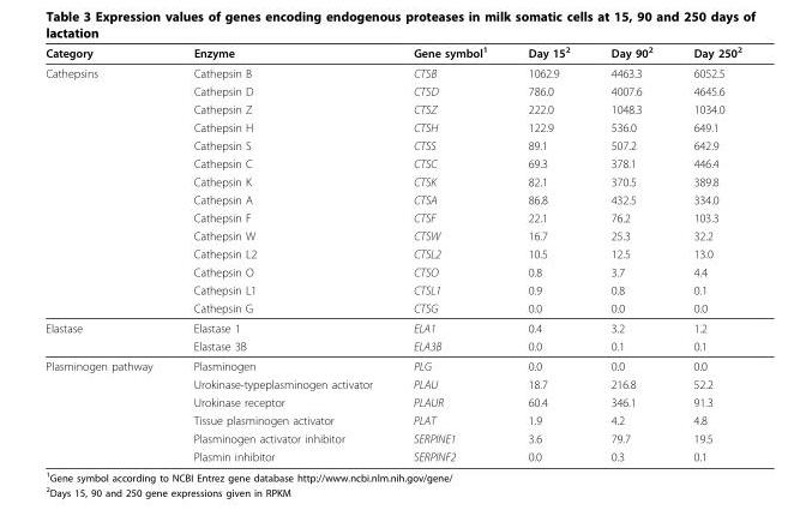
<table><thead><tr><td>Category</td><td>Enzyme</td><td>Gene symbol<sup>1</sup></td><td>Day 15<sup>2</sup></td><td>Day 90<sup>2</sup></td><td>Day 250<sup>2</sup></td></tr></thead><tbody><tr><td rowspan="14">Cathepsins</td><td>Cathepsin B</td><td>CTSB</td><td>1062.9</td><td>4463.3</td><td>6052.5</td></tr><tr><td>Cathepsin D</td><td>CTSD</td><td>786.0</td><td>4007.6</td><td>4645.6</td></tr><tr><td>Cathepsin Z</td><td>CTSZ</td><td>222.0</td><td>1048.3</td><td>1034.0</td></tr><tr><td>Cathepsin H</td><td>CTSH</td><td>122.9</td><td>536.0</td><td>649.1</td></tr><tr><td>Cathepsin S</td><td>CTSS</td><td>89.1</td><td>507.2</td><td>642.9</td></tr><tr><td>Cathepsin C</td><td>CTSC</td><td>69.3</td><td>378.1</td><td>446.4</td></tr><tr><td>Cathepsin K</td><td>CTSK</td><td>82.1</td><td>370.5</td><td>389.8</td></tr><tr><td>Cathepsin A</td><td>CTSA</td><td>86.8</td><td>432.5</td><td>334.0</td></tr><tr><td>Cathepsin F</td><td>CTSF</td><td>22.1</td><td>76.2</td><td>103.3</td></tr><tr><td>Cathepsin W</td><td>CTSW</td><td>16.7</td><td>25.3</td><td>32.2</td></tr><tr><td>Cathepsin L2</td><td>CTSL2</td><td>10.5</td><td>12.5</td><td>13.0</td></tr><tr><td>Cathepsin O</td><td>CTSO</td><td>0.8</td><td>3.7</td><td>4.4</td></tr><tr><td>Cathepsin L1</td><td>CTSL1</td><td>0.9</td><td>0.8</td><td>0.1</td></tr><tr><td>Cathepsin G</td><td>CTSG</td><td>0.0</td><td>0.0</td><td>0.0</td></tr><tr><td rowspan="2">Elastase</td><td>Elastase 1</td><td>ELA1</td><td>0.4</td><td>3.2</td><td>1.2</td></tr><tr><td>Elastase 3B</td><td>ELA3B</td><td>0.0</td><td>0.1</td><td>0.1</td></tr><tr><td rowspan="6">Plasminogen pathway</td><td>Plasminogen</td><td>PLG</td><td>0.0</td><td>0.0</td><td>0.0</td></tr><tr><td>Urokinase-typeplasminogen activator</td><td>PLAU</td><td>18.7</td><td>216.8</td><td>52.2</td></tr><tr><td>Urokinase receptor</td><td>PLAUR</td><td>60.4</td><td>346.1</td><td>91.3</td></tr><tr><td>Tissue plasminogen activator</td><td>PLAT</td><td>1.9</td><td>4.2</td><td>4.8</td></tr><tr><td>Plasminogen activator inhibitor</td><td>SERPINE1</td><td>3.6</td><td>79.7</td><td>19.5</td></tr><tr><td>Plasmin inhibitor</td><td>SERPINF2</td><td>0.0</td><td>0.3</td><td>0.1</td></tr></tbody></table>